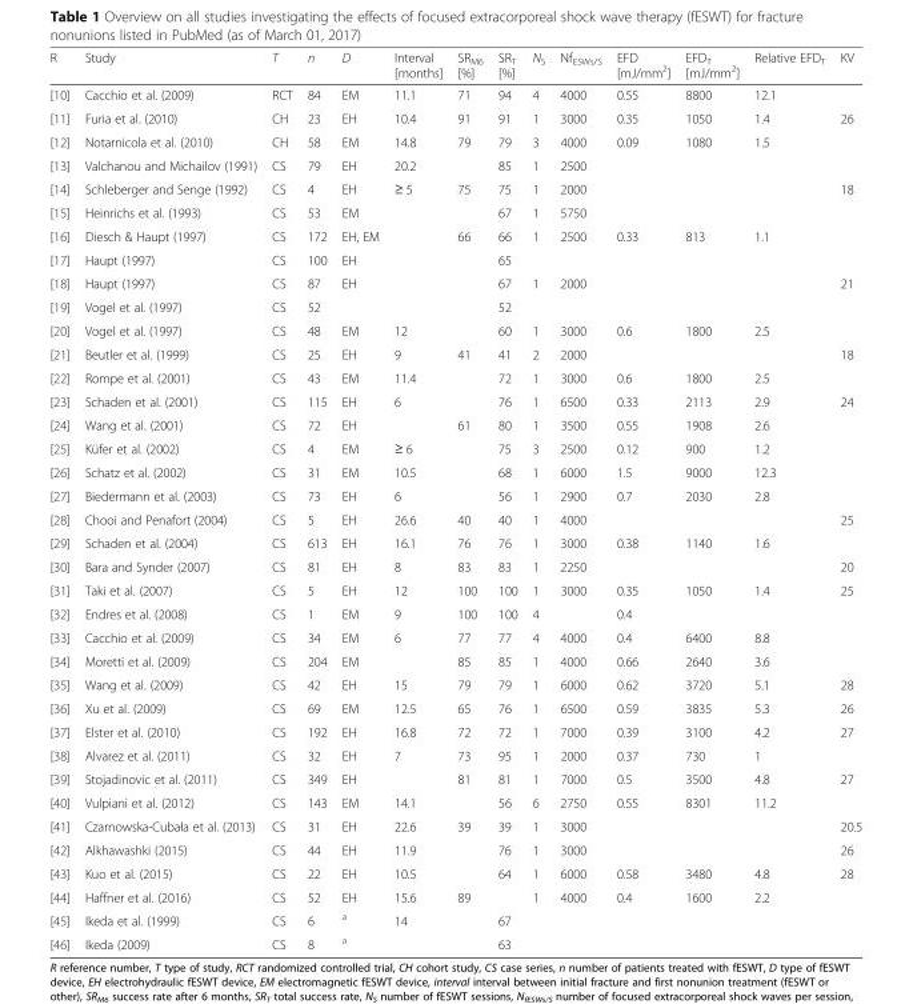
<table><thead><tr><td>R</td><td>Study</td><td>T</td><td>n</td><td>D</td><td>Interval [months]</td><td>SR<sub>M6</sub> [%]</td><td>SR<sub>T</sub> [%]</td><td>N<sub>S</sub></td><td>Nf<sub>ESWs/S</sub></td><td>EFD [mJ/mm<sup>2</sup>]</td><td>EFD<sub>T</sub> [mJ/mm<sup>2</sup>]</td><td>Relative EFD<sub>T</sub></td><td>KV</td></tr></thead><tbody><tr><td>[10]</td><td>Cacchio et al. (2009)</td><td>RCT</td><td>84</td><td>EM</td><td>11.1</td><td>71</td><td>94</td><td>4</td><td>4000</td><td>0.55</td><td>8800</td><td>12.1</td><td></td></tr><tr><td>[11]</td><td>Furia et al. (2010)</td><td>CH</td><td>23</td><td>EH</td><td>10.4</td><td>91</td><td>91</td><td>1</td><td>3000</td><td>0.35</td><td>1050</td><td>1.4</td><td>26</td></tr><tr><td>[12]</td><td>Notarnicola et al. (2010)</td><td>CH</td><td>58</td><td>EM</td><td>14.8</td><td>79</td><td>79</td><td>3</td><td>4000</td><td>0.09</td><td>1080</td><td>1.5</td><td></td></tr><tr><td>[13]</td><td>Valchanou and Michailov (1991)</td><td>CS</td><td>79</td><td>EH</td><td>20.2</td><td></td><td>85</td><td>1</td><td>2500</td><td></td><td></td><td></td><td></td></tr><tr><td>[14]</td><td>Schleberger and Senge (1992)</td><td>CS</td><td>4</td><td>EH</td><td>≥ 5</td><td>75</td><td>75</td><td>1</td><td>2000</td><td></td><td></td><td></td><td>18</td></tr><tr><td>[15]</td><td>Heinrichs et al. (1993)</td><td>CS</td><td>53</td><td>EM</td><td></td><td></td><td>67</td><td>1</td><td>5750</td><td></td><td></td><td></td><td></td></tr><tr><td>[16]</td><td>Diesch &amp; Haupt (1997)</td><td>CS</td><td>172</td><td>EH, EM</td><td></td><td>66</td><td>66</td><td>1</td><td>2500</td><td>0.33</td><td>813</td><td>1.1</td><td></td></tr><tr><td>[17]</td><td>Haupt (1997)</td><td>CS</td><td>100</td><td>EH</td><td></td><td></td><td>65</td><td></td><td></td><td></td><td></td><td></td><td></td></tr><tr><td>[18]</td><td>Haupt (1997)</td><td>CS</td><td>87</td><td>EH</td><td></td><td></td><td>67</td><td>1</td><td>2000</td><td></td><td></td><td></td><td>21</td></tr><tr><td>[19]</td><td>Vogel et al. (1997)</td><td>CS</td><td>52</td><td></td><td></td><td></td><td>52</td><td></td><td></td><td></td><td></td><td></td><td></td></tr><tr><td>[20]</td><td>Vogel et al. (1997)</td><td>CS</td><td>48</td><td>EM</td><td>12</td><td></td><td>60</td><td>1</td><td>3000</td><td>0.6</td><td>1800</td><td>2.5</td><td></td></tr><tr><td>[21]</td><td>Beutler et al. (1999)</td><td>CS</td><td>25</td><td>EH</td><td>9</td><td>41</td><td>41</td><td>2</td><td>2000</td><td></td><td></td><td></td><td>18</td></tr><tr><td>[22]</td><td>Rompe et al. (2001)</td><td>CS</td><td>43</td><td>EM</td><td>11.4</td><td></td><td>72</td><td>1</td><td>3000</td><td>0.6</td><td>1800</td><td>2.5</td><td></td></tr><tr><td>[23]</td><td>Schaden et al. (2001)</td><td>CS</td><td>115</td><td>EH</td><td>6</td><td></td><td>76</td><td>1</td><td>6500</td><td>0.33</td><td>2113</td><td>2.9</td><td>24</td></tr><tr><td>[24]</td><td>Wang et al. (2001)</td><td>CS</td><td>72</td><td>EH</td><td></td><td>61</td><td>80</td><td>1</td><td>3500</td><td>0.55</td><td>1908</td><td>2.6</td><td></td></tr><tr><td>[25]</td><td>Küfer et al. (2002)</td><td>CS</td><td>4</td><td>EM</td><td>≥ 6</td><td></td><td>75</td><td>3</td><td>2500</td><td>0.12</td><td>900</td><td>1.2</td><td></td></tr><tr><td>[26]</td><td>Schatz et al. (2002)</td><td>CS</td><td>31</td><td>EM</td><td>10.5</td><td></td><td>68</td><td>1</td><td>6000</td><td>1.5</td><td>9000</td><td>12.3</td><td></td></tr><tr><td>[27]</td><td>Biedermann et al. (2003)</td><td>CS</td><td>73</td><td>EH</td><td>6</td><td></td><td>56</td><td>1</td><td>2900</td><td>0.7</td><td>2030</td><td>2.8</td><td></td></tr><tr><td>[28]</td><td>Chooi and Penafort (2004)</td><td>CS</td><td>5</td><td>EH</td><td>26.6</td><td>40</td><td>40</td><td>1</td><td>4000</td><td></td><td></td><td></td><td>25</td></tr><tr><td>[29]</td><td>Schaden et al. (2004)</td><td>CS</td><td>613</td><td>EH</td><td>16.1</td><td>76</td><td>76</td><td>1</td><td>3000</td><td>0.38</td><td>1140</td><td>1.6</td><td></td></tr><tr><td>[30]</td><td>Bara and Synder (2007)</td><td>CS</td><td>81</td><td>EH</td><td>8</td><td>83</td><td>83</td><td>1</td><td>2250</td><td></td><td></td><td></td><td>20</td></tr><tr><td>[31]</td><td>Taki et al. (2007)</td><td>CS</td><td>5</td><td>EH</td><td>12</td><td>100</td><td>100</td><td>1</td><td>3000</td><td>0.35</td><td>1050</td><td>1.4</td><td>25</td></tr><tr><td>[32]</td><td>Endres et al. (2008)</td><td>CS</td><td>1</td><td>EM</td><td>9</td><td>100</td><td>100</td><td>4</td><td></td><td>0.4</td><td></td><td></td><td></td></tr><tr><td>[33]</td><td>Cacchio et al. (2009)</td><td>CS</td><td>34</td><td>EM</td><td>6</td><td>77</td><td>77</td><td>4</td><td>4000</td><td>0.4</td><td>6400</td><td>8.8</td><td></td></tr><tr><td>[34]</td><td>Moretti et al. (2009)</td><td>CS</td><td>204</td><td>EM</td><td></td><td>85</td><td>85</td><td>1</td><td>4000</td><td>0.66</td><td>2640</td><td>3.6</td><td></td></tr><tr><td>[35]</td><td>Wang et al. (2009)</td><td>CS</td><td>42</td><td>EH</td><td>15</td><td>79</td><td>79</td><td>1</td><td>6000</td><td>0.62</td><td>3720</td><td>5.1</td><td>28</td></tr><tr><td>[36]</td><td>Xu et al. (2009)</td><td>CS</td><td>69</td><td>EM</td><td>12.5</td><td>65</td><td>76</td><td>1</td><td>6500</td><td>0.59</td><td>3835</td><td>5.3</td><td>26</td></tr><tr><td>[37]</td><td>Elster et al. (2010)</td><td>CS</td><td>192</td><td>EH</td><td>16.8</td><td>72</td><td>72</td><td>1</td><td>7000</td><td>0.39</td><td>3100</td><td>4.2</td><td>27</td></tr><tr><td>[38]</td><td>Alvarez et al. (2011)</td><td>CS</td><td>32</td><td>EH</td><td>7</td><td>73</td><td>95</td><td>1</td><td>2000</td><td>0.37</td><td>730</td><td>1</td><td></td></tr><tr><td>[39]</td><td>Stojadinovic et al. (2011)</td><td>CS</td><td>349</td><td>EH</td><td></td><td>81</td><td>81</td><td>1</td><td>7000</td><td>0.5</td><td>3500</td><td>4.8</td><td>27</td></tr><tr><td>[40]</td><td>Vulpiani et al. (2012)</td><td>CS</td><td>143</td><td>EM</td><td>14.1</td><td></td><td>56</td><td>6</td><td>2750</td><td>0.55</td><td>8301</td><td>11.2</td><td></td></tr><tr><td>[41]</td><td>Czarnowska-Cubała et al. (2013)</td><td>CS</td><td>31</td><td>EH</td><td>22.6</td><td>39</td><td>39</td><td>1</td><td>3000</td><td></td><td></td><td></td><td>20.5</td></tr><tr><td>[42]</td><td>Alkhawashki (2015)</td><td>CS</td><td>44</td><td>EH</td><td>11.9</td><td></td><td>76</td><td>1</td><td>3000</td><td></td><td></td><td></td><td>26</td></tr><tr><td>[43]</td><td>Kuo et al. (2015)</td><td>CS</td><td>22</td><td>EH</td><td>10.5</td><td></td><td>64</td><td>1</td><td>6000</td><td>0.58</td><td>3480</td><td>4.8</td><td>28</td></tr><tr><td>[44]</td><td>Haffner et al. (2016)</td><td>CS</td><td>52</td><td>EH</td><td>15.6</td><td>89</td><td></td><td>1</td><td>4000</td><td>0.4</td><td>1600</td><td>2.2</td><td></td></tr><tr><td>[45]</td><td>Ikeda et al. (1999)</td><td>CS</td><td>6</td><td><sup>a</sup></td><td>14</td><td></td><td>67</td><td></td><td></td><td></td><td></td><td></td><td></td></tr><tr><td>[46]</td><td>Ikeda (2009)</td><td>CS</td><td>8</td><td><sup>a</sup></td><td></td><td></td><td>63</td><td></td><td></td><td></td><td></td><td></td><td></td></tr></tbody></table>